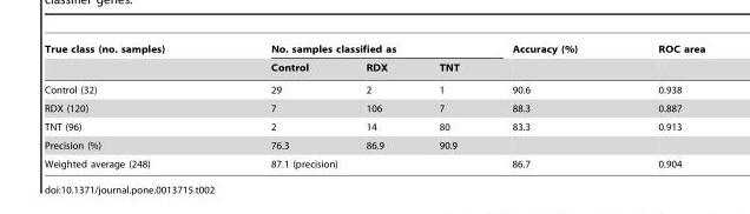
<table><thead><tr><td rowspan="2">True class (no. samples)</td><td colspan="3">No. samples classified as</td><td rowspan="2">Accuracy (%)</td><td rowspan="2">ROC area</td></tr><tr><td>Control</td><td>RDX</td><td>TNT</td></tr></thead><tbody><tr><td>Control (32)</td><td>29</td><td>2</td><td>1</td><td>90.6</td><td>0.938</td></tr><tr><td>RDX (120)</td><td>7</td><td>106</td><td>7</td><td>88.3</td><td>0.887</td></tr><tr><td>TNT (96)</td><td>2</td><td>14</td><td>80</td><td>83.3</td><td>0.913</td></tr><tr><td>Precision (%)</td><td>76.3</td><td>86.9</td><td>90.9</td><td></td><td></td></tr><tr><td>Weighted average (248)</td><td colspan="3">87.1 (precision)</td><td>86.7</td><td>0.904</td></tr></tbody></table>